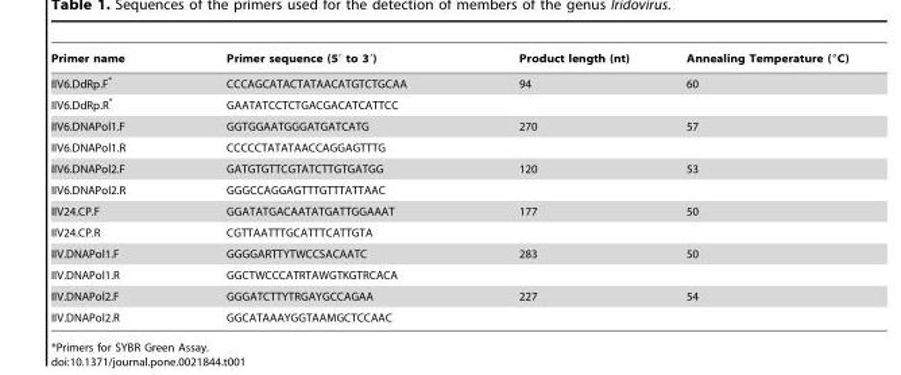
<table><thead><tr><td>Primer name</td><td>Primer sequence (5′ to 3′)</td><td>Product length (nt)</td><td>Annealing Temperature (°C)</td></tr></thead><tbody><tr><td>IIV6.DdRp.F*</td><td>CCCAGCATACTATAACATGTCTGCAA</td><td>94</td><td>60</td></tr><tr><td>IIV6.DdRp.R*</td><td>GAATATCCTCTGACGACATCATTCC</td><td></td><td></td></tr><tr><td>IIV6.DNAPol1.F</td><td>GGTGGAATGGGATGATCATG</td><td>270</td><td>57</td></tr><tr><td>IIV6.DNAPol1.R</td><td>CCCCCTATATAACCAGGAGTTTG</td><td></td><td></td></tr><tr><td>IIV6.DNAPol2.F</td><td>GATGTGTTCGTATCTTGTGATGG</td><td>120</td><td>53</td></tr><tr><td>IIV6.DNAPol2.R</td><td>GGGCCAGGAGTTTGTTTATTAAC</td><td></td><td></td></tr><tr><td>IIV24.CP.F</td><td>GGATATGACAATATGATTGGAAAT</td><td>177</td><td>50</td></tr><tr><td>IIV24.CP.R</td><td>CGTTAATTTGCATTTCATTGTA</td><td></td><td></td></tr><tr><td>IIV.DNAPol1.F</td><td>GGGGARTTYTWCCSACAATC</td><td>283</td><td>50</td></tr><tr><td>IIV.DNAPol1.R</td><td>GGCTWCCCATRTAWGTKGTRCACA</td><td></td><td></td></tr><tr><td>IIV.DNAPol2.F</td><td>GGGATCTTYTRGAYGCCAGAA</td><td>227</td><td>54</td></tr><tr><td>IIV.DNAPol2.R</td><td>GGCATAAAYGGTAAMGCTCCAAC</td><td></td><td></td></tr></tbody></table>